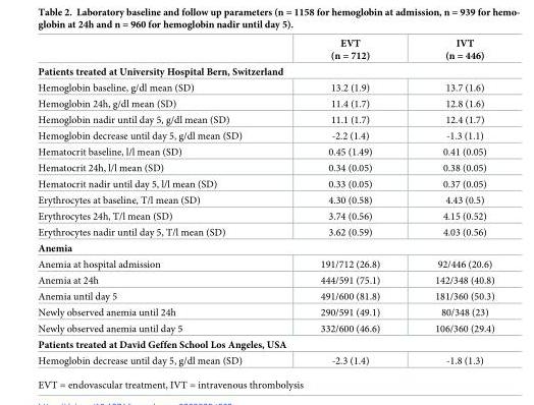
<table><thead><tr><td></td><td>EVT (n = 712)</td><td>IVT (n = 446)</td></tr></thead><tbody><tr><td colspan="3">Patients treated at University Hospital Bern, Switzerland</td></tr><tr><td>Hemoglobin baseline, g/dl mean (SD)</td><td>13.2 (1.9)</td><td>13.7 (1.6)</td></tr><tr><td>Hemoglobin 24h, g/dl mean (SD)</td><td>11.4 (1.7)</td><td>12.8 (1.6)</td></tr><tr><td>Hemoglobin nadir until day 5, g/dl mean (SD)</td><td>11.1 (1.7)</td><td>12.4 (1.7)</td></tr><tr><td>Hemoglobin decrease until day 5, g/dl mean (SD)</td><td>-2.2 (1.4)</td><td>-1.3 (1.1)</td></tr><tr><td>Hematocrit baseline, l/l mean (SD)</td><td>0.45 (1.49)</td><td>0.41 (0.05)</td></tr><tr><td>Hematocrit 24h, l/l mean (SD)</td><td>0.34 (0.05)</td><td>0.38 (0.05)</td></tr><tr><td>Hematocrit nadir until day 5, l/l mean (SD)</td><td>0.33 (0.05)</td><td>0.37 (0.05)</td></tr><tr><td>Erythrocytes at baseline, T/l mean (SD)</td><td>4.30 (0.58)</td><td>4.43 (0.5)</td></tr><tr><td>Erythrocytes 24h, T/l mean (SD)</td><td>3.74 (0.56)</td><td>4.15 (0.52)</td></tr><tr><td>Erythrocytes nadir until day 5, T/l mean (SD)</td><td>3.62 (0.59)</td><td>4.03 (0.56)</td></tr><tr><td colspan="3">Anemia</td></tr><tr><td>Anemia at hospital admission</td><td>191/712 (26.8)</td><td>92/446 (20.6)</td></tr><tr><td>Anemia at 24h</td><td>444/591 (75.1)</td><td>142/348 (40.8)</td></tr><tr><td>Anemia until day 5</td><td>491/600 (81.8)</td><td>181/360 (50.3)</td></tr><tr><td>Newly observed anemia until 24h</td><td>290/591 (49.1)</td><td>80/348 (23)</td></tr><tr><td>Newly observed anemia until day 5</td><td>332/600 (46.6)</td><td>106/360 (29.4)</td></tr><tr><td colspan="3">Patients treated at David Geffen School Los Angeles, USA</td></tr><tr><td>Hemoglobin decrease until day 5, g/dl mean (SD)</td><td>-2.3 (1.4)</td><td>-1.8 (1.3)</td></tr></tbody></table>